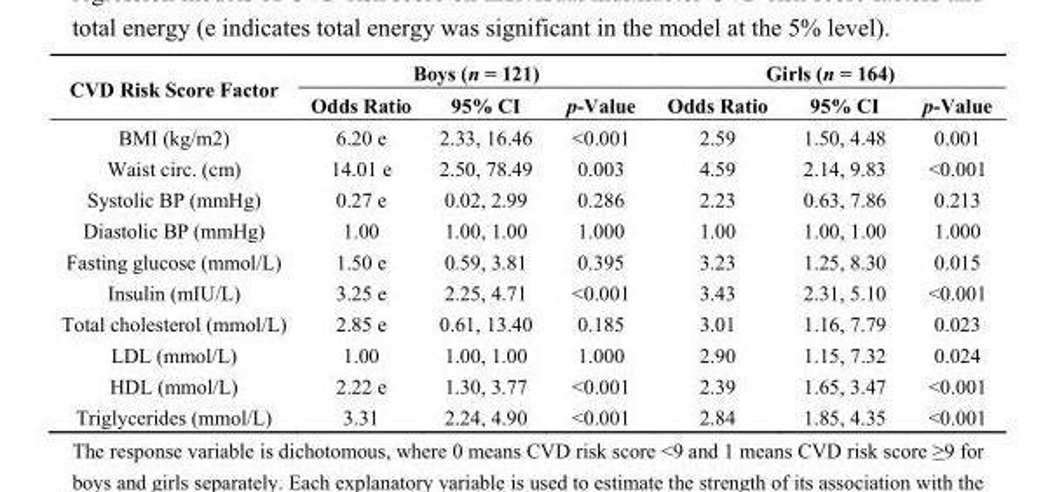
<table><thead><tr><td rowspan="2">CVD Risk Score Factor</td><td colspan="3">Boys (n = 121)</td><td colspan="3">Girls (n = 164)</td></tr><tr><td>Odds Ratio</td><td>95% CI</td><td>p-Value</td><td>Odds Ratio</td><td>95% CI</td><td>p-Value</td></tr></thead><tbody><tr><td>BMI (kg/m2)</td><td>6.20 e</td><td>2.33, 16.46</td><td>&lt;0.001</td><td>2.59</td><td>1.50, 4.48</td><td>0.001</td></tr><tr><td>Waist circ. (cm)</td><td>14.01 e</td><td>2.50, 78.49</td><td>0.003</td><td>4.59</td><td>2.14, 9.83</td><td>&lt;0.001</td></tr><tr><td>Systolic BP (mmHg)</td><td>0.27 e</td><td>0.02, 2.99</td><td>0.286</td><td>2.23</td><td>0.63, 7.86</td><td>0.213</td></tr><tr><td>Diastolic BP (mmHg)</td><td>1.00</td><td>1.00, 1.00</td><td>1.000</td><td>1.00</td><td>1.00, 1.00</td><td>1.000</td></tr><tr><td>Fasting glucose (mmol/L)</td><td>1.50 e</td><td>0.59, 3.81</td><td>0.395</td><td>3.23</td><td>1.25, 8.30</td><td>0.015</td></tr><tr><td>Insulin (mIU/L)</td><td>3.25 e</td><td>2.25, 4.71</td><td>&lt;0.001</td><td>3.43</td><td>2.31, 5.10</td><td>&lt;0.001</td></tr><tr><td>Total cholesterol (mmol/L)</td><td>2.85 e</td><td>0.61, 13.40</td><td>0.185</td><td>3.01</td><td>1.16, 7.79</td><td>0.023</td></tr><tr><td>LDL (mmol/L)</td><td>1.00</td><td>1.00, 1.00</td><td>1.000</td><td>2.90</td><td>1.15, 7.32</td><td>0.024</td></tr><tr><td>HDL (mmol/L)</td><td>2.22 e</td><td>1.30, 3.77</td><td>&lt;0.001</td><td>2.39</td><td>1.65, 3.47</td><td>&lt;0.001</td></tr><tr><td>Triglycerides (mmol/L)</td><td>3.31</td><td>2.24, 4.90</td><td>&lt;0.001</td><td>2.84</td><td>1.85, 4.35</td><td>&lt;0.001</td></tr></tbody></table>